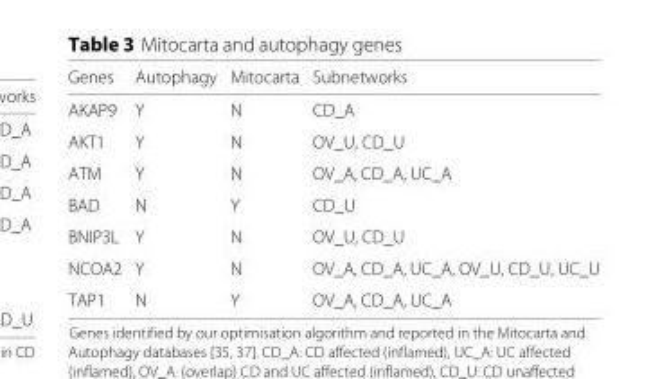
<table><thead><tr><td>Genes</td><td>Autophagy</td><td>Mitocarta</td><td>Subnetworks</td></tr></thead><tbody><tr><td>AKAP9</td><td>Y</td><td>N</td><td>CD_A</td></tr><tr><td>AKT1</td><td>Y</td><td>N</td><td>OV_U, CD_U</td></tr><tr><td>ATM</td><td>Y</td><td>N</td><td>OV_A, CD_A, UC_A</td></tr><tr><td>BAD</td><td>N</td><td>Y</td><td>CD_U</td></tr><tr><td>BNIP3L</td><td>Y</td><td>N</td><td>OV_U, CD_U</td></tr><tr><td>NCOA2</td><td>Y</td><td>N</td><td>OV_A, CD_A, UC_A, OV_U, CD_U, UC_U</td></tr><tr><td>TAP1</td><td>N</td><td>Y</td><td>OV_A, CD_A, UC_A</td></tr></tbody></table>